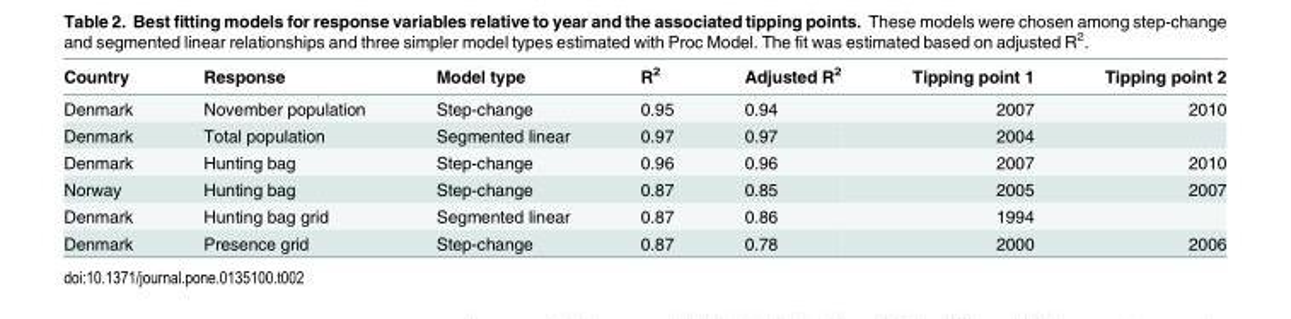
<table><thead><tr><td>Country</td><td>Response</td><td>Model type</td><td>R<sup>2</sup></td><td>Adjusted R<sup>2</sup></td><td>Tipping point 1</td><td>Tipping point 2</td></tr></thead><tbody><tr><td>Denmark</td><td>November population</td><td>Step-change</td><td>0.95</td><td>0.94</td><td>2007</td><td>2010</td></tr><tr><td>Denmark</td><td>Total population</td><td>Segmented linear</td><td>0.97</td><td>0.97</td><td>2004</td><td></td></tr><tr><td>Denmark</td><td>Hunting bag</td><td>Step-change</td><td>0.96</td><td>0.96</td><td>2007</td><td>2010</td></tr><tr><td>Norway</td><td>Hunting bag</td><td>Step-change</td><td>0.87</td><td>0.85</td><td>2005</td><td>2007</td></tr><tr><td>Denmark</td><td>Hunting bag grid</td><td>Segmented linear</td><td>0.87</td><td>0.86</td><td>1994</td><td></td></tr><tr><td>Denmark</td><td>Presence grid</td><td>Step-change</td><td>0.87</td><td>0.78</td><td>2000</td><td>2006</td></tr></tbody></table>